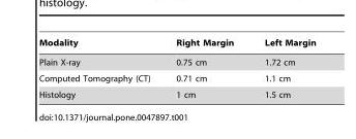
<table><thead><tr><td>Modality</td><td>Right Margin</td><td>Left Margin</td></tr></thead><tbody><tr><td>Plain X-ray</td><td>0.75 cm</td><td>1.72 cm</td></tr><tr><td>Computed Tomography (CT)</td><td>0.71 cm</td><td>1.1 cm</td></tr><tr><td>Histology</td><td>1 cm</td><td>1.5 cm</td></tr></tbody></table>